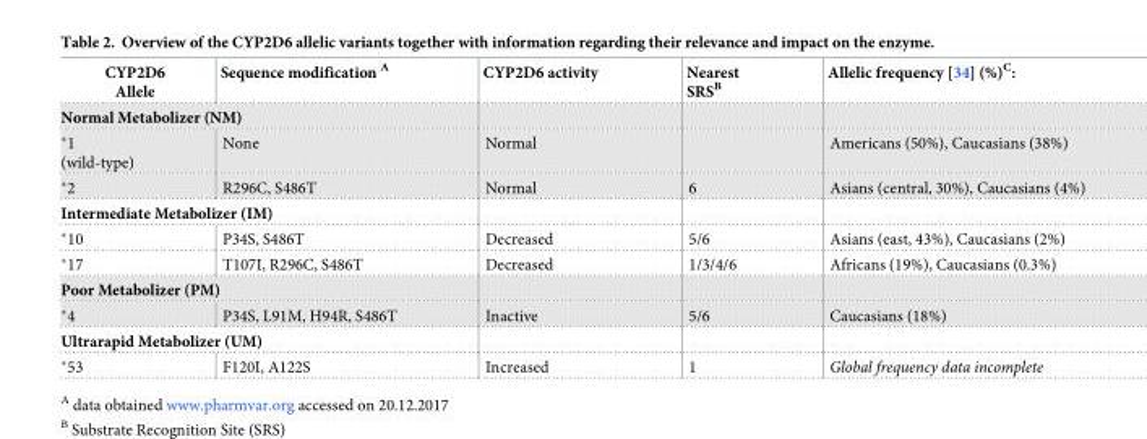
<table><thead><tr><td>CYP2D6 Allele</td><td>Sequence modification <sup>A</sup></td><td>CYP2D6 activity</td><td>Nearest SRS<sup>B</sup></td><td>Allelic frequency [34] (%)<sup>C</sup>:</td></tr></thead><tbody><tr><td colspan="5">Normal Metabolizer (NM)</td></tr><tr><td>*1 (wild-type)</td><td>None</td><td>Normal</td><td></td><td>Americans (50%), Caucasians (38%)</td></tr><tr><td>*2</td><td>R296C, S486T</td><td>Normal</td><td>6</td><td>Asians (central, 30%), Caucasians (4%)</td></tr><tr><td colspan="5">Intermediate Metabolizer (IM)</td></tr><tr><td>*10</td><td>P34S, S486T</td><td>Decreased</td><td>5/6</td><td>Asians (east, 43%), Caucasians (2%)</td></tr><tr><td>*17</td><td>T107I, R296C, S486T</td><td>Decreased</td><td>1/3/4/6</td><td>Africans (19%), Caucasians (0.3%)</td></tr><tr><td colspan="5">Poor Metabolizer (PM)</td></tr><tr><td>*4</td><td>P34S, L91M, H94R, S486T</td><td>Inactive</td><td>5/6</td><td>Caucasians (18%)</td></tr><tr><td colspan="5">Ultrarapid Metabolizer (UM)</td></tr><tr><td>*53</td><td>F120I, A122S</td><td>Increased</td><td>1</td><td>Global frequency data incomplete</td></tr></tbody></table>